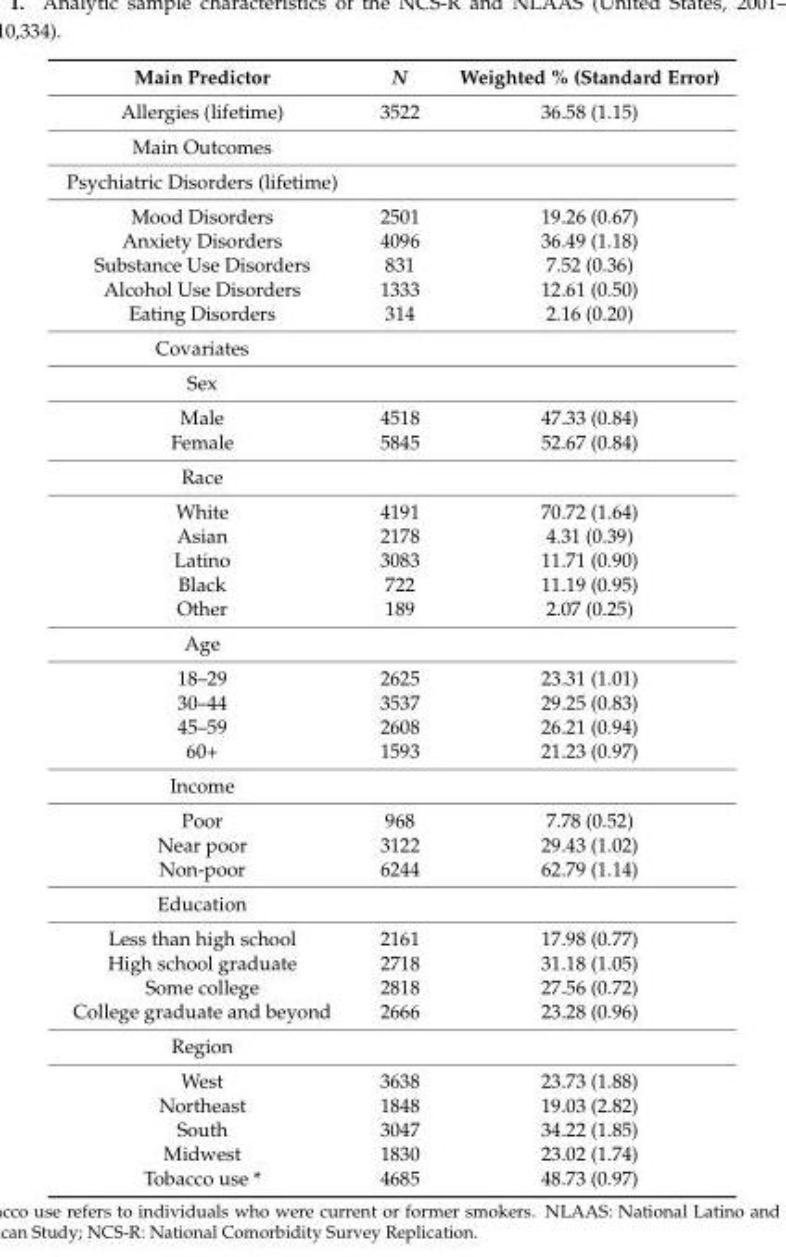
<table><thead><tr><td>Main Predictor</td><td>N</td><td>Weighted % (Standard Error)</td></tr></thead><tbody><tr><td>Allergies (lifetime)</td><td>3522</td><td>36.58 (1.15)</td></tr><tr><td colspan="3">Main Outcomes</td></tr><tr><td colspan="3">Psychiatric Disorders (lifetime)</td></tr><tr><td>Mood Disorders</td><td>2501</td><td>19.26 (0.67)</td></tr><tr><td>Anxiety Disorders</td><td>4096</td><td>36.49 (1.18)</td></tr><tr><td>Substance Use Disorders</td><td>831</td><td>7.52 (0.36)</td></tr><tr><td>Alcohol Use Disorders</td><td>1333</td><td>12.61 (0.50)</td></tr><tr><td>Eating Disorders</td><td>314</td><td>2.16 (0.20)</td></tr><tr><td colspan="3">Covariates</td></tr><tr><td colspan="3">Sex</td></tr><tr><td>Male</td><td>4518</td><td>47.33 (0.84)</td></tr><tr><td>Female</td><td>5845</td><td>52.67 (0.84)</td></tr><tr><td colspan="3">Race</td></tr><tr><td>White</td><td>4191</td><td>70.72 (1.64)</td></tr><tr><td>Asian</td><td>2178</td><td>4.31 (0.39)</td></tr><tr><td>Latino</td><td>3083</td><td>11.71 (0.90)</td></tr><tr><td>Black</td><td>722</td><td>11.19 (0.95)</td></tr><tr><td>Other</td><td>189</td><td>2.07 (0.25)</td></tr><tr><td colspan="3">Age</td></tr><tr><td>18–29</td><td>2625</td><td>23.31 (1.01)</td></tr><tr><td>30–44</td><td>3537</td><td>29.25 (0.83)</td></tr><tr><td>45–59</td><td>2608</td><td>26.21 (0.94)</td></tr><tr><td>60+</td><td>1593</td><td>21.23 (0.97)</td></tr><tr><td colspan="3">Income</td></tr><tr><td>Poor</td><td>968</td><td>7.78 (0.52)</td></tr><tr><td>Near poor</td><td>3122</td><td>29.43 (1.02)</td></tr><tr><td>Non-poor</td><td>6244</td><td>62.79 (1.14)</td></tr><tr><td colspan="3">Education</td></tr><tr><td>Less than high school</td><td>2161</td><td>17.98 (0.77)</td></tr><tr><td>High school graduate</td><td>2718</td><td>31.18 (1.05)</td></tr><tr><td>Some college</td><td>2818</td><td>27.56 (0.72)</td></tr><tr><td>College graduate and beyond</td><td>2666</td><td>23.28 (0.96)</td></tr><tr><td colspan="3">Region</td></tr><tr><td>West</td><td>3638</td><td>23.73 (1.88)</td></tr><tr><td>Northeast</td><td>1848</td><td>19.03 (2.82)</td></tr><tr><td>South</td><td>3047</td><td>34.22 (1.85)</td></tr><tr><td>Midwest</td><td>1830</td><td>23.02 (1.74)</td></tr><tr><td>Tobacco use *</td><td>4685</td><td>48.73 (0.97)</td></tr></tbody></table>